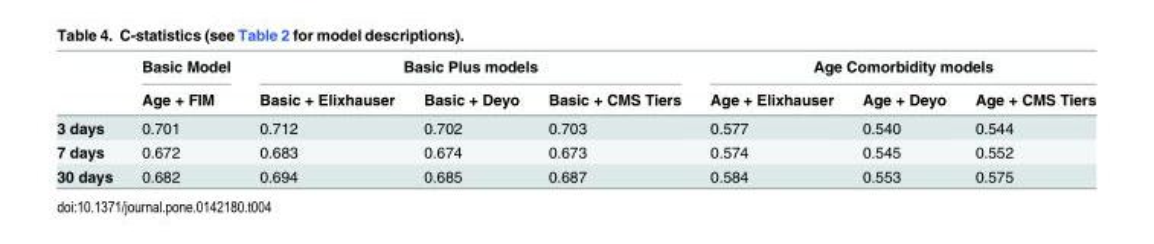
<table><thead><tr><td rowspan="2"></td><td rowspan="2">Basic Model Age + FIM</td><td colspan="3">Basic Plus models</td><td colspan="3">Age Comorbidity models</td></tr><tr><td>Basic + Elixhauser</td><td>Basic + Deyo</td><td>Basic + CMS Tiers</td><td>Age + Elixhauser</td><td>Age + Deyo</td><td>Age + CMS Tiers</td></tr></thead><tbody><tr><td>3 days</td><td>0.701</td><td>0.712</td><td>0.702</td><td>0.703</td><td>0.577</td><td>0.540</td><td>0.544</td></tr><tr><td>7 days</td><td>0.672</td><td>0.683</td><td>0.674</td><td>0.673</td><td>0.574</td><td>0.545</td><td>0.552</td></tr><tr><td>30 days</td><td>0.682</td><td>0.694</td><td>0.685</td><td>0.687</td><td>0.584</td><td>0.553</td><td>0.575</td></tr></tbody></table>